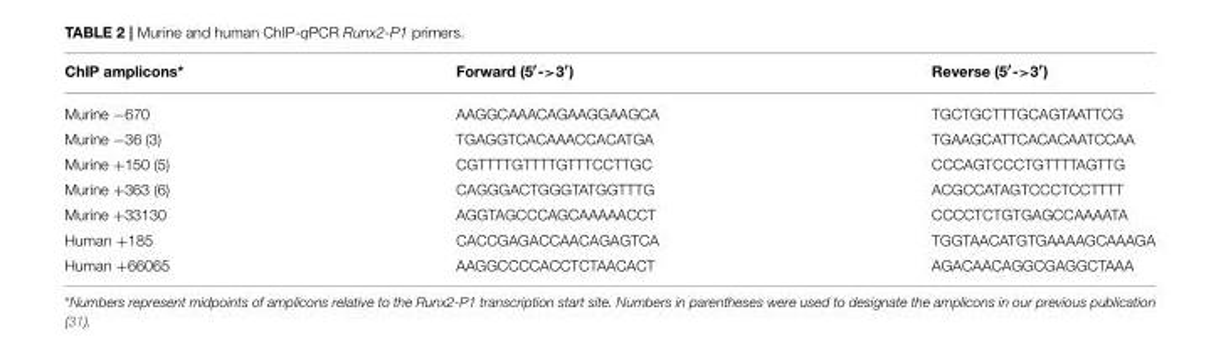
<table><thead><tr><td>ChIP amplicons*</td><td>Forward (5′-&gt;3′)</td><td>Reverse (5′-&gt;3′)</td></tr></thead><tbody><tr><td>Murine −670</td><td>AAGGCAAACAGAAGGAAGCA</td><td>TGCTGCTTTGCAGTAATTCG</td></tr><tr><td>Murine −36 (3)</td><td>TGAGGTCACAAACCACATGA</td><td>TGAAGCATTCACACAATCCAA</td></tr><tr><td>Murine +150 (5)</td><td>CGTTTTGTTTTGTTTCCTTGC</td><td>CCCAGTCCCTGTTTTAGTTG</td></tr><tr><td>Murine +363 (6)</td><td>CAGGGACTGGGTATGGTTTG</td><td>ACGCCATAGTCCCTCCTTTT</td></tr><tr><td>Murine +33130</td><td>AGGTAGCCCAGCAAAAACCT</td><td>CCCCTCTGTGAGCCAAAATA</td></tr><tr><td>Human +185</td><td>CACCGAGACCAACAGAGTCA</td><td>TGGTAACATGTGAAAAGCAAAGA</td></tr><tr><td>Human +66065</td><td>AAGGCCCCACCTCTAACACT</td><td>AGACAACAGGCGAGGCTAAA</td></tr></tbody></table>